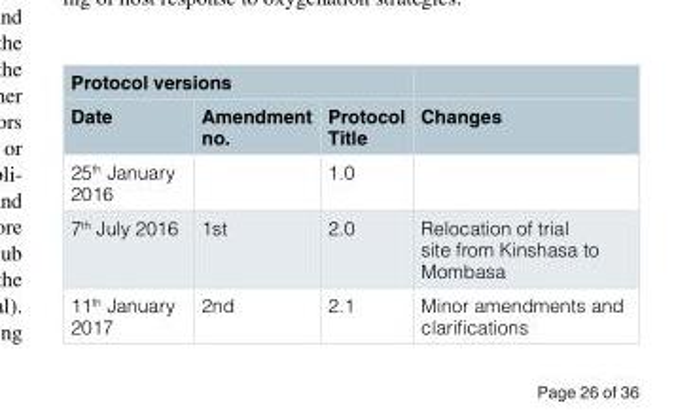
<table><thead><tr><td colspan="3">Protocol versions</td><td rowspan="2">Changes</td></tr><tr><td>Date</td><td>Amendment no.</td><td>Protocol Title</td></tr></thead><tbody><tr><td>25<sup>th</sup> January 2016</td><td></td><td>1.0</td><td></td></tr><tr><td>7<sup>th</sup> July 2016</td><td>1st</td><td>2.0</td><td>Relocation of trial site from Kinshasa to Mombasa</td></tr><tr><td>11<sup>th</sup> January 2017</td><td>2nd</td><td>2.1</td><td>Minor amendments and clarifications</td></tr></tbody></table>